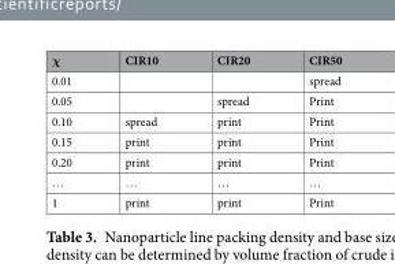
<table><thead><tr><td>χ</td><td>CIR10</td><td>CIR20</td><td>CIR50</td></tr></thead><tbody><tr><td>0.01</td><td></td><td></td><td>spread</td></tr><tr><td>0.05</td><td></td><td>spread</td><td>Print</td></tr><tr><td>0.10</td><td>spread</td><td>print</td><td>Print</td></tr><tr><td>0.15</td><td>print</td><td>print</td><td>Print</td></tr><tr><td>0.20</td><td>print</td><td>print</td><td>Print</td></tr><tr><td>…</td><td>…</td><td>…</td><td>…</td></tr><tr><td>1</td><td>print</td><td>print</td><td>Print</td></tr></tbody></table>